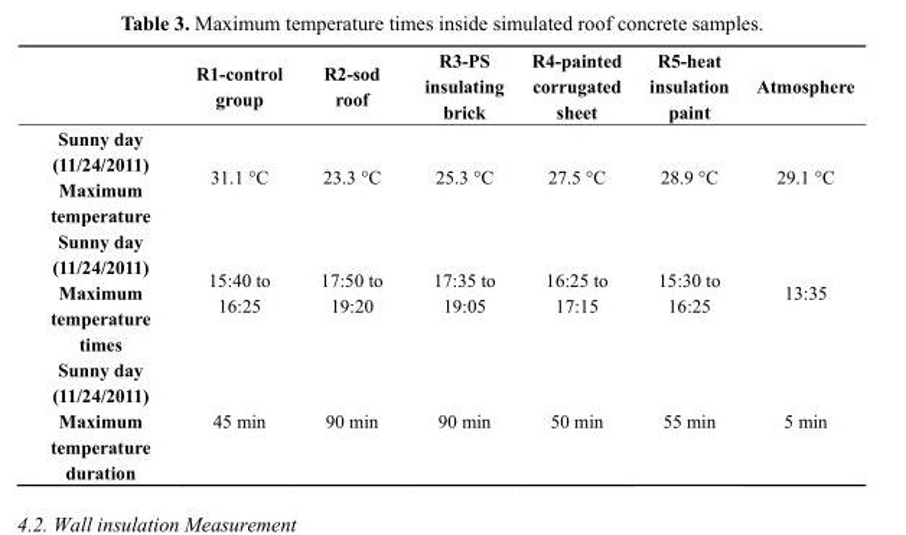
<table><thead><tr><td></td><td>R1-control group</td><td>R2-sod roof</td><td>R3-PS insulating brick</td><td>R4-painted corrugated sheet</td><td>R5-heat insulation paint</td><td>Atmosphere</td></tr></thead><tbody><tr><td>Sunny day (11/24/2011) Maximum temperature</td><td>31.1 °C</td><td>23.3 °C</td><td>25.3 °C</td><td>27.5 °C</td><td>28.9 °C</td><td>29.1 °C</td></tr><tr><td>Sunny day (11/24/2011) Maximum temperature times</td><td>15:40 to 16:25</td><td>17:50 to 19:20</td><td>17:35 to 19:05</td><td>16:25 to 17:15</td><td>15:30 to 16:25</td><td>13:35</td></tr><tr><td>Sunny day (11/24/2011) Maximum temperature duration</td><td>45 min</td><td>90 min</td><td>90 min</td><td>50 min</td><td>55 min</td><td>5 min</td></tr></tbody></table>